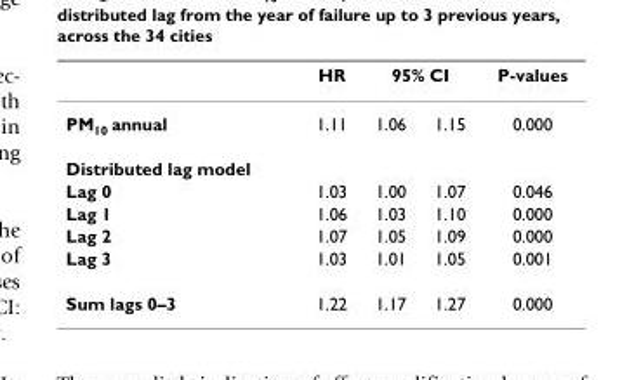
<table><thead><tr><td rowspan="2">PM<sub>10</sub> annual</td><td rowspan="2">HR 1.11</td><td colspan="2">95% CI</td><td rowspan="2">P-values 0.000</td></tr><tr><td>1.06</td><td>1.15</td></tr></thead><tbody><tr><td colspan="5">Distributed lag model</td></tr><tr><td>Lag 0</td><td>1.03</td><td>1.00</td><td>1.07</td><td>0.046</td></tr><tr><td>Lag 1</td><td>1.06</td><td>1.03</td><td>1.10</td><td>0.000</td></tr><tr><td>Lag 2</td><td>1.07</td><td>1.05</td><td>1.09</td><td>0.000</td></tr><tr><td>Lag 3</td><td>1.03</td><td>1.01</td><td>1.05</td><td>0.001</td></tr><tr><td>Sum lags 0–3</td><td>1.22</td><td>1.17</td><td>1.27</td><td>0.000</td></tr></tbody></table>